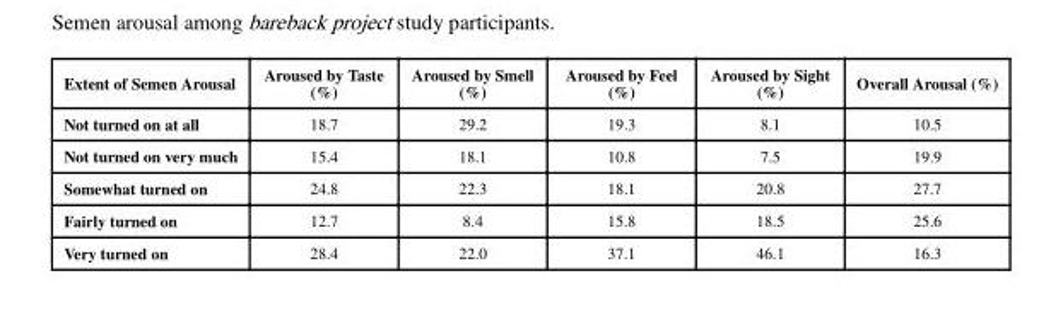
<table><thead><tr><td>Extent of Semen Arousal</td><td>Aroused by Taste (%)</td><td>Aroused by Smell (%)</td><td>Aroused by Feel (%)</td><td>Aroused by Sight (%)</td><td>Overall Arousal (%)</td></tr></thead><tbody><tr><td>Not turned on at all</td><td>18.7</td><td>29.2</td><td>19.3</td><td>8.1</td><td>10.5</td></tr><tr><td>Not turned on very much</td><td>15.4</td><td>18.1</td><td>10.8</td><td>7.5</td><td>19.9</td></tr><tr><td>Somewhat turned on</td><td>24.8</td><td>22.3</td><td>18.1</td><td>20.8</td><td>27.7</td></tr><tr><td>Fairly turned on</td><td>12.7</td><td>8.4</td><td>15.8</td><td>18.5</td><td>25.6</td></tr><tr><td>Very turned on</td><td>28.4</td><td>22.0</td><td>37.1</td><td>46.1</td><td>16.3</td></tr></tbody></table>